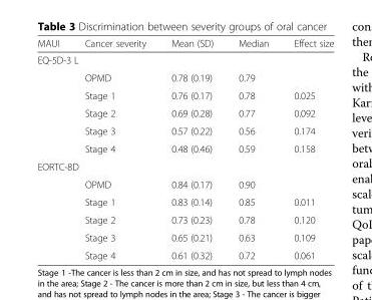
<table><thead><tr><td>MAUI</td><td>Cancer severity</td><td>Mean (SD)</td><td>Median</td><td>Effect size</td></tr></thead><tbody><tr><td colspan="5">EQ-5D-3 L</td></tr><tr><td></td><td>OPMD</td><td>0.78 (0.19)</td><td>0.79</td><td></td></tr><tr><td></td><td>Stage 1</td><td>0.76 (0.17)</td><td>0.78</td><td>0.025</td></tr><tr><td></td><td>Stage 2</td><td>0.69 (0.28)</td><td>0.77</td><td>0.092</td></tr><tr><td></td><td>Stage 3</td><td>0.57 (0.22)</td><td>0.56</td><td>0.174</td></tr><tr><td></td><td>Stage 4</td><td>0.48 (0.46)</td><td>0.59</td><td>0.158</td></tr><tr><td colspan="5">EORTC-8D</td></tr><tr><td></td><td>OPMD</td><td>0.84 (0.17)</td><td>0.90</td><td></td></tr><tr><td></td><td>Stage 1</td><td>0.83 (0.14)</td><td>0.85</td><td>0.011</td></tr><tr><td></td><td>Stage 2</td><td>0.73 (0.23)</td><td>0.78</td><td>0.120</td></tr><tr><td></td><td>Stage 3</td><td>0.65 (0.21)</td><td>0.63</td><td>0.109</td></tr><tr><td></td><td>Stage 4</td><td>0.61 (0.32)</td><td>0.72</td><td>0.061</td></tr></tbody></table>